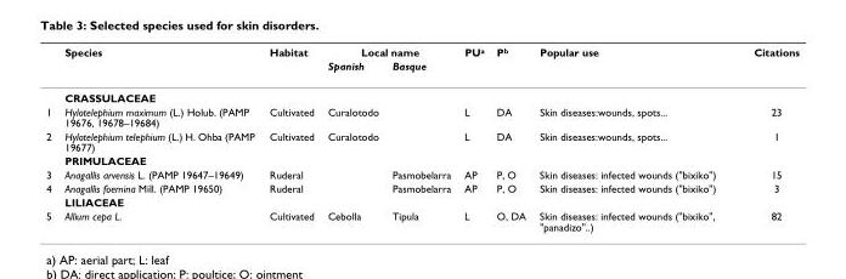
<table><thead><tr><td rowspan="2"></td><td rowspan="2">Species</td><td rowspan="2">Habitat</td><td colspan="2">Local name</td><td rowspan="2">PU<sup>a</sup></td><td rowspan="2">P<sup>b</sup></td><td rowspan="2">Popular use</td><td rowspan="2">Citations</td></tr><tr><td>Spanish</td><td>Basque</td></tr></thead><tbody><tr><td></td><td>CRASSULACEAE</td><td></td><td></td><td></td><td></td><td></td><td></td><td></td></tr><tr><td>1</td><td>Hylotelephium maximum (L.) Holub. (PAMP 19676, 19678–19684)</td><td>Cultivated</td><td>Curalotodo</td><td></td><td>L</td><td>DA</td><td>Skin diseases:wounds, spots...</td><td>23</td></tr><tr><td rowspan="2">2</td><td>Hylotelephium telephium (L.) H. Ohba (PAMP 19677)</td><td>Cultivated</td><td>Curalotodo</td><td></td><td>L</td><td>DA</td><td>Skin diseases:wounds, spots...</td><td>1</td></tr><tr><td>PRIMULACEAE</td><td></td><td></td><td></td><td></td><td></td><td></td><td></td></tr><tr><td>3</td><td>Anagallis arvensis L. (PAMP 19647–19649)</td><td>Ruderal</td><td></td><td>Pasmobelarra</td><td>AP</td><td>P, O</td><td>Skin diseases: infected wounds (&quot;bixiko&quot;)</td><td>15</td></tr><tr><td rowspan="2">4</td><td>Anagallis foemina Mill. (PAMP 19650)</td><td>Ruderal</td><td></td><td>Pasmobelarra</td><td>AP</td><td>P, O</td><td>Skin diseases: infected wounds (&quot;bixiko&quot;)</td><td>3</td></tr><tr><td>LILIACEAE</td><td></td><td></td><td></td><td></td><td></td><td></td><td></td></tr><tr><td>5</td><td>Allium cepa L.</td><td>Cultivated</td><td>Cebolla</td><td>Tipula</td><td>L</td><td>O, DA</td><td>Skin diseases: infected wounds (&quot;bixiko&quot;, &quot;panadizo&quot;..)</td><td>82</td></tr></tbody></table>